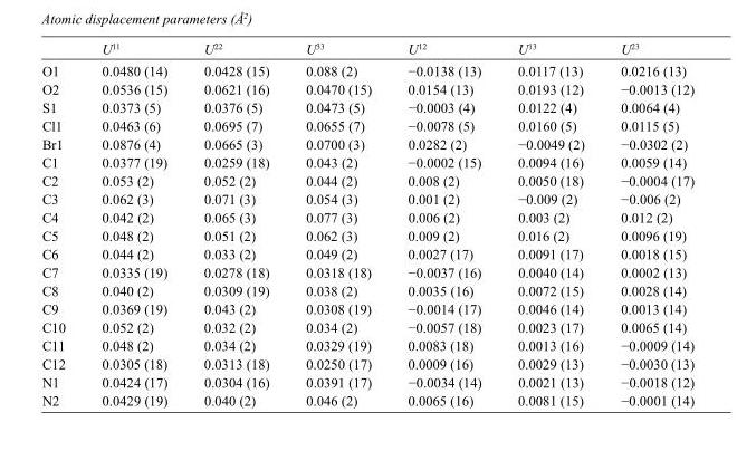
<table><thead><tr><td></td><td>U<sup>11</sup></td><td>U<sup>22</sup></td><td>U<sup>33</sup></td><td>U<sup>12</sup></td><td>U<sup>13</sup></td><td>U<sup>23</sup></td></tr></thead><tbody><tr><td>O1</td><td>0.0480 (14)</td><td>0.0428 (15)</td><td>0.088 (2)</td><td>−0.0138 (13)</td><td>0.0117 (13)</td><td>0.0216 (13)</td></tr><tr><td>O2</td><td>0.0536 (15)</td><td>0.0621 (16)</td><td>0.0470 (15)</td><td>0.0154 (13)</td><td>0.0193 (12)</td><td>−0.0013 (12)</td></tr><tr><td>S1</td><td>0.0373 (5)</td><td>0.0376 (5)</td><td>0.0473 (5)</td><td>−0.0003 (4)</td><td>0.0122 (4)</td><td>0.0064 (4)</td></tr><tr><td>Cl1</td><td>0.0463 (6)</td><td>0.0695 (7)</td><td>0.0655 (7)</td><td>−0.0078 (5)</td><td>0.0160 (5)</td><td>0.0115 (5)</td></tr><tr><td>Br1</td><td>0.0876 (4)</td><td>0.0665 (3)</td><td>0.0700 (3)</td><td>0.0282 (2)</td><td>−0.0049 (2)</td><td>−0.0302 (2)</td></tr><tr><td>C1</td><td>0.0377 (19)</td><td>0.0259 (18)</td><td>0.043 (2)</td><td>−0.0002 (15)</td><td>0.0094 (16)</td><td>0.0059 (14)</td></tr><tr><td>C2</td><td>0.053 (2)</td><td>0.052 (2)</td><td>0.044 (2)</td><td>0.008 (2)</td><td>0.0050 (18)</td><td>−0.0004 (17)</td></tr><tr><td>C3</td><td>0.062 (3)</td><td>0.071 (3)</td><td>0.054 (3)</td><td>0.001 (2)</td><td>−0.009 (2)</td><td>−0.006 (2)</td></tr><tr><td>C4</td><td>0.042 (2)</td><td>0.065 (3)</td><td>0.077 (3)</td><td>0.006 (2)</td><td>0.003 (2)</td><td>0.012 (2)</td></tr><tr><td>C5</td><td>0.048 (2)</td><td>0.051 (2)</td><td>0.062 (3)</td><td>0.009 (2)</td><td>0.016 (2)</td><td>0.0096 (19)</td></tr><tr><td>C6</td><td>0.044 (2)</td><td>0.033 (2)</td><td>0.049 (2)</td><td>0.0027 (17)</td><td>0.0091 (17)</td><td>0.0018 (15)</td></tr><tr><td>C7</td><td>0.0335 (19)</td><td>0.0278 (18)</td><td>0.0318 (18)</td><td>−0.0037 (16)</td><td>0.0040 (14)</td><td>0.0002 (13)</td></tr><tr><td>C8</td><td>0.040 (2)</td><td>0.0309 (19)</td><td>0.038 (2)</td><td>0.0035 (16)</td><td>0.0072 (15)</td><td>0.0028 (14)</td></tr><tr><td>C9</td><td>0.0369 (19)</td><td>0.043 (2)</td><td>0.0308 (19)</td><td>−0.0014 (17)</td><td>0.0046 (14)</td><td>0.0013 (14)</td></tr><tr><td>C10</td><td>0.052 (2)</td><td>0.032 (2)</td><td>0.034 (2)</td><td>−0.0057 (18)</td><td>0.0023 (17)</td><td>0.0065 (14)</td></tr><tr><td>C11</td><td>0.048 (2)</td><td>0.034 (2)</td><td>0.0329 (19)</td><td>0.0083 (18)</td><td>0.0013 (16)</td><td>−0.0009 (14)</td></tr><tr><td>C12</td><td>0.0305 (18)</td><td>0.0313 (18)</td><td>0.0250 (17)</td><td>0.0009 (16)</td><td>0.0029 (13)</td><td>−0.0030 (13)</td></tr><tr><td>N1</td><td>0.0424 (17)</td><td>0.0304 (16)</td><td>0.0391 (17)</td><td>−0.0034 (14)</td><td>0.0021 (13)</td><td>−0.0018 (12)</td></tr><tr><td>N2</td><td>0.0429 (19)</td><td>0.040 (2)</td><td>0.046 (2)</td><td>0.0065 (16)</td><td>0.0081 (15)</td><td>−0.0001 (14)</td></tr></tbody></table>